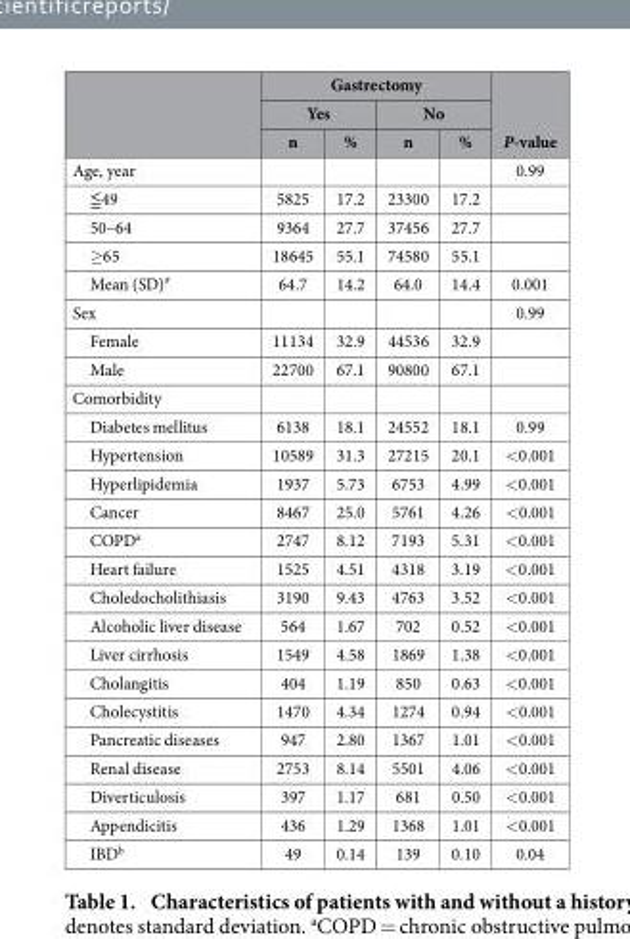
<table><thead><tr><td rowspan="3"></td><td colspan="4">Gastrectomy</td><td rowspan="3">P-value</td></tr><tr><td colspan="2">Yes</td><td colspan="2">No</td></tr><tr><td>n</td><td>%</td><td>n</td><td>%</td></tr></thead><tbody><tr><td>Age, year</td><td></td><td></td><td></td><td></td><td>0.99</td></tr><tr><td>≦ 49</td><td>5825</td><td>17.2</td><td>23300</td><td>17.2</td><td></td></tr><tr><td>50–64</td><td>9364</td><td>27.7</td><td>37456</td><td>27.7</td><td></td></tr><tr><td>≥ 65</td><td>18645</td><td>55.1</td><td>74580</td><td>55.1</td><td></td></tr><tr><td>Mean (SD)<sup>#</sup></td><td>64.7</td><td>14.2</td><td>64.0</td><td>14.4</td><td>0.001</td></tr><tr><td>Sex</td><td></td><td></td><td></td><td></td><td>0.99</td></tr><tr><td>Female</td><td>11134</td><td>32.9</td><td>44536</td><td>32.9</td><td></td></tr><tr><td>Male</td><td>22700</td><td>67.1</td><td>90800</td><td>67.1</td><td></td></tr><tr><td colspan="6">Comorbidity</td></tr><tr><td>Diabetes mellitus</td><td>6138</td><td>18.1</td><td>24552</td><td>18.1</td><td>0.99</td></tr><tr><td>Hypertension</td><td>10589</td><td>31.3</td><td>27215</td><td>20.1</td><td>&lt; 0.001</td></tr><tr><td>Hyperlipidemia</td><td>1937</td><td>5.73</td><td>6753</td><td>4.99</td><td>&lt; 0.001</td></tr><tr><td>Cancer</td><td>8467</td><td>25.0</td><td>5761</td><td>4.26</td><td>&lt; 0.001</td></tr><tr><td>COPD<sup>a</sup></td><td>2747</td><td>8.12</td><td>7193</td><td>5.31</td><td>&lt; 0.001</td></tr><tr><td>Heart failure</td><td>1525</td><td>4.51</td><td>4318</td><td>3.19</td><td>&lt; 0.001</td></tr><tr><td>Choledocholithiasis</td><td>3190</td><td>9.43</td><td>4763</td><td>3.52</td><td>&lt; 0.001</td></tr><tr><td>Alcoholic liver disease</td><td>564</td><td>1.67</td><td>702</td><td>0.52</td><td>&lt; 0.001</td></tr><tr><td>Liver cirrhosis</td><td>1549</td><td>4.58</td><td>1869</td><td>1.38</td><td>&lt; 0.001</td></tr><tr><td>Cholangitis</td><td>404</td><td>1.19</td><td>850</td><td>0.63</td><td>&lt; 0.001</td></tr><tr><td>Cholecystitis</td><td>1470</td><td>4.34</td><td>1274</td><td>0.94</td><td>&lt; 0.001</td></tr><tr><td>Pancreatic diseases</td><td>947</td><td>2.80</td><td>1367</td><td>1.01</td><td>&lt; 0.001</td></tr><tr><td>Renal disease</td><td>2753</td><td>8.14</td><td>5501</td><td>4.06</td><td>&lt; 0.001</td></tr><tr><td>Diverticulosis</td><td>397</td><td>1.17</td><td>681</td><td>0.50</td><td>&lt; 0.001</td></tr><tr><td>Appendicitis</td><td>436</td><td>1.29</td><td>1368</td><td>1.01</td><td>&lt; 0.001</td></tr><tr><td>IBD<sup>b</sup></td><td>49</td><td>0.14</td><td>139</td><td>0.10</td><td>0.04</td></tr></tbody></table>